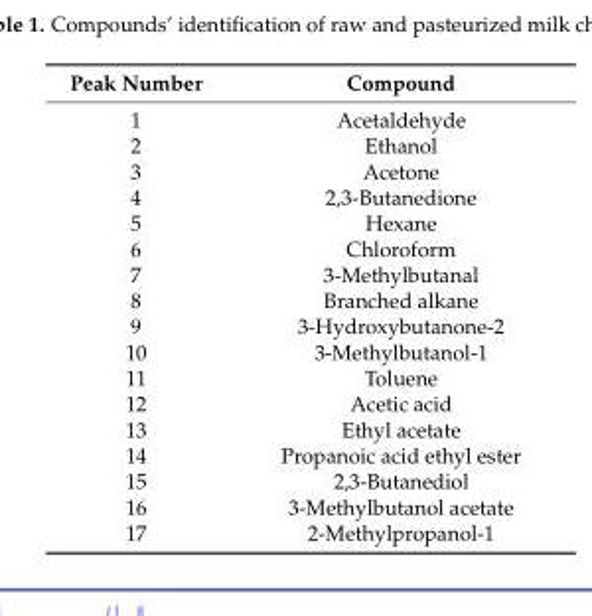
<table><thead><tr><td>Peak Number</td><td>Compound</td></tr></thead><tbody><tr><td>1</td><td>Acetaldehyde</td></tr><tr><td>2</td><td>Ethanol</td></tr><tr><td>3</td><td>Acetone</td></tr><tr><td>4</td><td>2,3-Butanedione</td></tr><tr><td>5</td><td>Hexane</td></tr><tr><td>6</td><td>Chloroform</td></tr><tr><td>7</td><td>3-Methylbutanal</td></tr><tr><td>8</td><td>Branched alkane</td></tr><tr><td>9</td><td>3-Hydroxybutanone-2</td></tr><tr><td>10</td><td>3-Methylbutanol-1</td></tr><tr><td>11</td><td>Toluene</td></tr><tr><td>12</td><td>Acetic acid</td></tr><tr><td>13</td><td>Ethyl acetate</td></tr><tr><td>14</td><td>Propanoic acid ethyl ester</td></tr><tr><td>15</td><td>2,3-Butanediol</td></tr><tr><td>16</td><td>3-Methylbutanol acetate</td></tr><tr><td>17</td><td>2-Methylpropanol-1</td></tr></tbody></table>